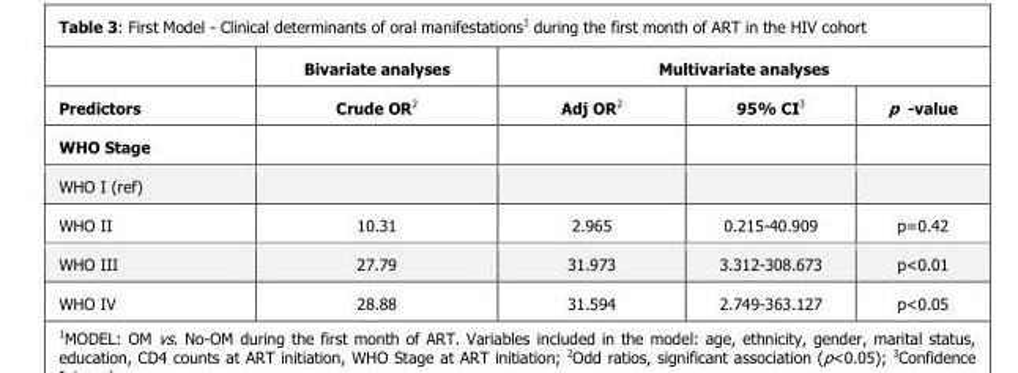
<table><thead><tr><td rowspan="2">Predictors</td><td rowspan="2">Bivariate analyses Crude OR<sup>2</sup></td><td colspan="3">Multivariate analyses</td></tr><tr><td>Adj OR<sup>2</sup></td><td>95% CI<sup>3</sup></td><td>p -value</td></tr></thead><tbody><tr><td colspan="5">WHO Stage</td></tr><tr><td colspan="5">WHO I (ref)</td></tr><tr><td>WHO II</td><td>10.31</td><td>2.965</td><td>0.215-40.909</td><td>p=0.42</td></tr><tr><td>WHO III</td><td>27.79</td><td>31.973</td><td>3.312-308.673</td><td>p&lt;0.01</td></tr><tr><td>WHO IV</td><td>28.88</td><td>31.594</td><td>2.749-363.127</td><td>p&lt;0.05</td></tr></tbody></table>